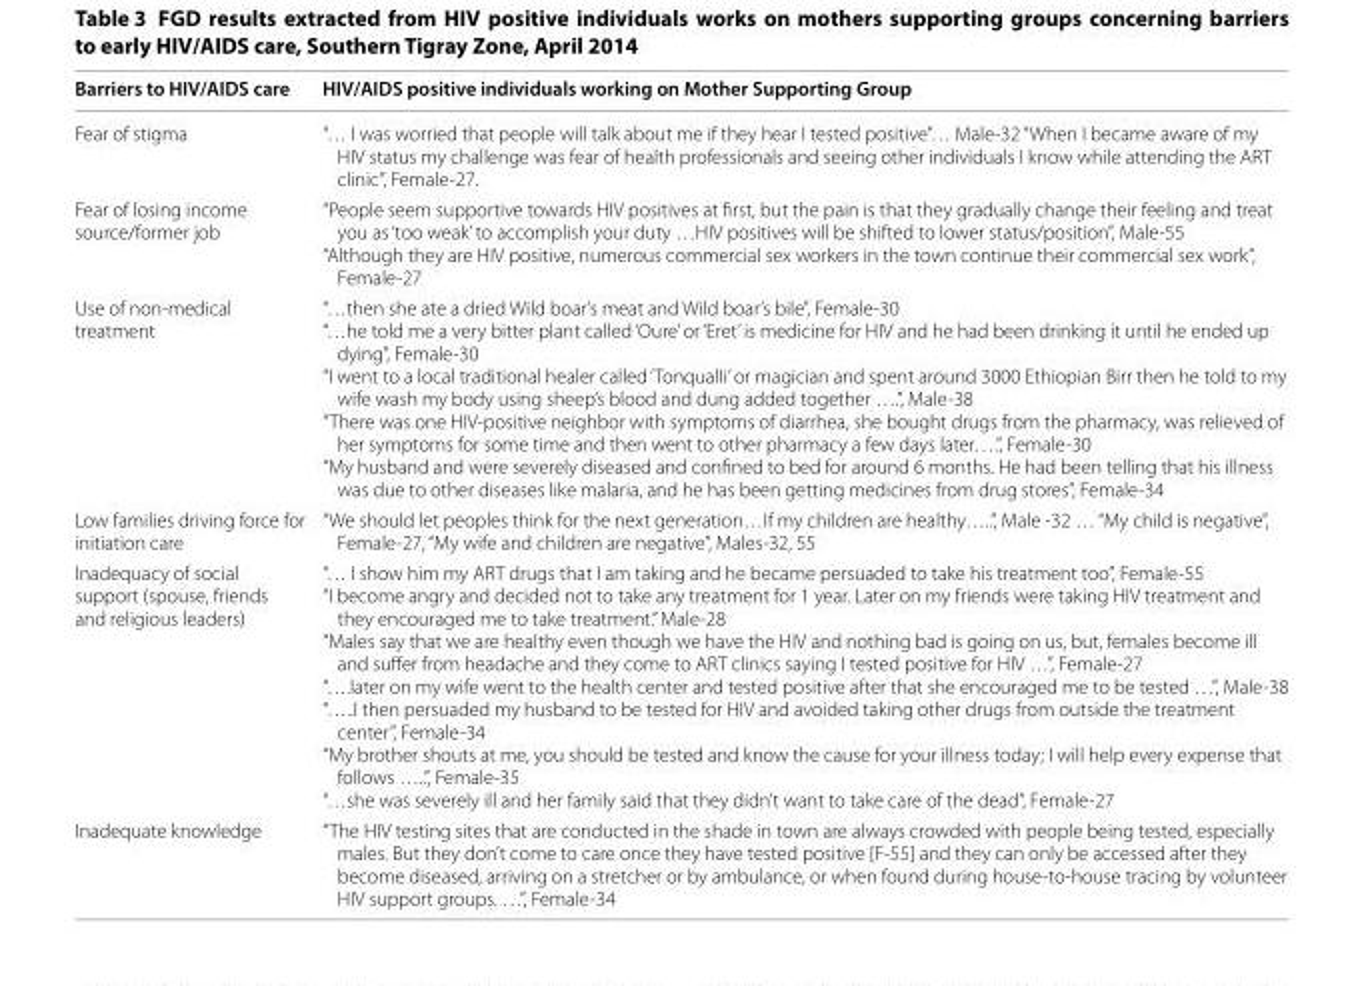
<table><thead><tr><td>Barriers to HIV/AIDS care</td><td>HIV/AIDS positive individuals working on Mother Supporting Group</td></tr></thead><tbody><tr><td>Fear of stigma</td><td>“… I was worried that people will talk about me if they hear I tested positive”… Male-32 “When I became aware of my HIV status my challenge was fear of health professionals and seeing other individuals I know while attending the ART clinic”, Female-27.</td></tr><tr><td>Fear of losing income source/former job</td><td>“People seem supportive towards HIV positives at first, but the pain is that they gradually change their feeling and treat you as ‘too weak’ to accomplish your duty …HIV positives will be shifted to lower status/position”, Male-55 “Although they are HIV positive, numerous commercial sex workers in the town continue their commercial sex work”, Female-27</td></tr><tr><td>Use of non-medical treatment</td><td>“…then she ate a dried Wild boar’s meat and Wild boar’s bile”, Female-30 “…he told me a very bitter plant called ‘Oure’ or ‘Eret’ is medicine for HIV and he had been drinking it until he ended up dying”, Female-30 “I went to a local traditional healer called ‘TonqualIi’ or magician and spent around 3000 Ethiopian Birr then he told to my wife wash my body using sheep’s blood and dung added together ….”, Male-38 “There was one HIV-positive neighbor with symptoms of diarrhea, she bought drugs from the pharmacy, was relieved of her symptoms for some time and then went to other pharmacy a few days later….”, Female-30 “My husband and were severely diseased and confined to bed for around 6 months. He had been telling that his illness was due to other diseases like malaria, and he has been getting medicines from drug stores”, Female-34</td></tr><tr><td>Low families driving force for initiation care</td><td>“We should let peoples think for the next generation…If my children are healthy…..”, Male -32 … “My child is negative”, Female-27, “My wife and children are negative”, Males-32, 55</td></tr><tr><td>Inadequacy of social support (spouse, friends and religious leaders)</td><td>“… I show him my ART drugs that I am taking and he became persuaded to take his treatment too”, Female-55 “I become angry and decided not to take any treatment for 1 year. Later on my friends were taking HIV treatment and they encouraged me to take treatment.” Male-28 “Males say that we are healthy even though we have the HIV and nothing bad is going on us, but, females become ill and suffer from headache and they come to ART clinics saying I tested positive for HIV …”, Female-27 “….later on my wife went to the health center and tested positive after that she encouraged me to be tested …”, Male-38 “…..I then persuaded my husband to be tested for HIV and avoided taking other drugs from outside the treatment center’’, Female-34 “My brother shouts at me, you should be tested and know the cause for your illness today; I will help every expense that follows …..”, Female-35 “…she was severely ill and her family said that they didn’t want to take care of the dead”, Female-27</td></tr><tr><td>Inadequate knowledge</td><td>“The HIV testing sites that are conducted in the shade in town are always crowded with people being tested, especially males. But they don’t come to care once they have tested positive [F-55] and they can only be accessed after they become diseased, arriving on a stretcher or by ambulance, or when found during house-to-house tracing by volunteer HIV support groups. …”, Female-34</td></tr></tbody></table>